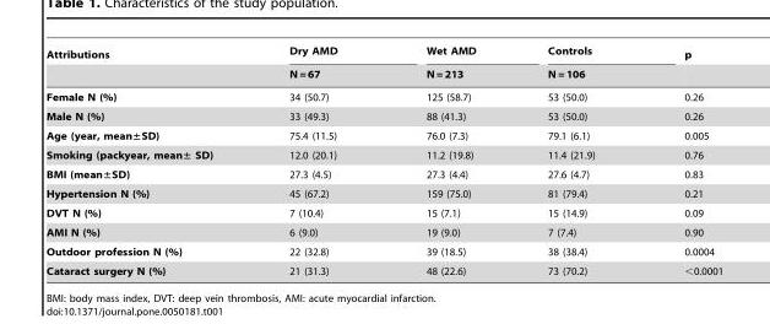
<table><thead><tr><td rowspan="2">Attributions</td><td rowspan="2">Dry AMD N = 67</td><td rowspan="2">Wet AMD N = 213</td><td rowspan="2">Controls N = 106</td><td rowspan="2">p</td></tr><tr></tr></thead><tbody><tr><td>Female N (%)</td><td>34 (50.7)</td><td>125 (58.7)</td><td>53 (50.0)</td><td>0.26</td></tr><tr><td>Male N (%)</td><td>33 (49.3)</td><td>88 (41.3)</td><td>53 (50.0)</td><td>0.26</td></tr><tr><td>Age (year, mean±SD)</td><td>75.4 (11.5)</td><td>76.0 (7.3)</td><td>79.1 (6.1)</td><td>0.005</td></tr><tr><td>Smoking (packyear, mean± SD)</td><td>12.0 (20.1)</td><td>11.2 (19.8)</td><td>11.4 (21.9)</td><td>0.76</td></tr><tr><td>BMI (mean±SD)</td><td>27.3 (4.5)</td><td>27.3 (4.4)</td><td>27.6 (4.7)</td><td>0.83</td></tr><tr><td>Hypertension N (%)</td><td>45 (67.2)</td><td>159 (75.0)</td><td>81 (79.4)</td><td>0.21</td></tr><tr><td>DVT N (%)</td><td>7 (10.4)</td><td>15 (7.1)</td><td>15 (14.9)</td><td>0.09</td></tr><tr><td>AMI N (%)</td><td>6 (9.0)</td><td>19 (9.0)</td><td>7 (7.4)</td><td>0.90</td></tr><tr><td>Outdoor profession N (%)</td><td>22 (32.8)</td><td>39 (18.5)</td><td>38 (38.4)</td><td>0.0004</td></tr><tr><td>Cataract surgery N (%)</td><td>21 (31.3)</td><td>48 (22.6)</td><td>73 (70.2)</td><td>&lt;0.0001</td></tr></tbody></table>